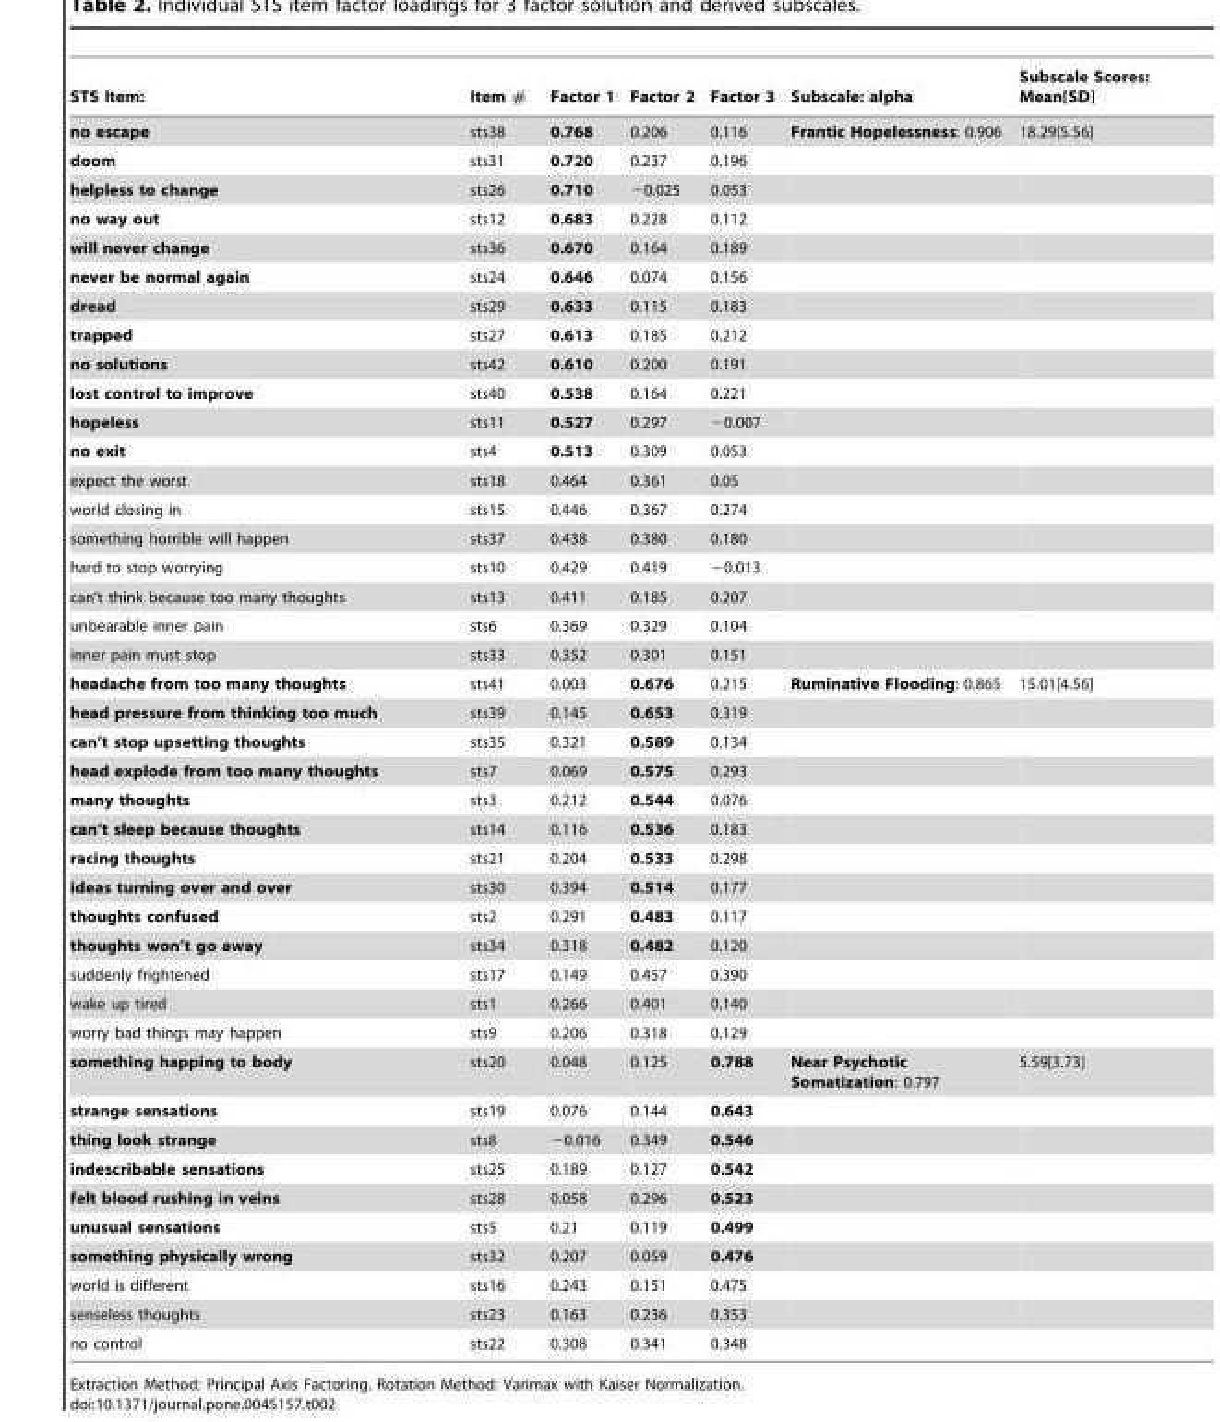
<table><thead><tr><td>STS Item:</td><td>Item #</td><td>Factor 1</td><td>Factor 2</td><td>Factor 3</td><td>Subscale: alpha</td><td>Subscale Scores: Mean[SD]</td></tr></thead><tbody><tr><td>no escape</td><td>sts38</td><td>0.768</td><td>0.206</td><td>0.116</td><td>Frantic Hopelessness: 0.906</td><td>18.29[5.56]</td></tr><tr><td>doom</td><td>sts31</td><td>0.720</td><td>0.237</td><td>0.196</td><td></td><td></td></tr><tr><td>helpless to change</td><td>sts26</td><td>0.710</td><td>−0.025</td><td>0.053</td><td></td><td></td></tr><tr><td>no way out</td><td>sts12</td><td>0.683</td><td>0.228</td><td>0.112</td><td></td><td></td></tr><tr><td>will never change</td><td>sts36</td><td>0.670</td><td>0.164</td><td>0.189</td><td></td><td></td></tr><tr><td>never be normal again</td><td>sts24</td><td>0.646</td><td>0.074</td><td>0.156</td><td></td><td></td></tr><tr><td>dread</td><td>sts29</td><td>0.633</td><td>0.115</td><td>0.183</td><td></td><td></td></tr><tr><td>trapped</td><td>sts27</td><td>0.613</td><td>0.185</td><td>0.212</td><td></td><td></td></tr><tr><td>no solutions</td><td>sts42</td><td>0.610</td><td>0.200</td><td>0.191</td><td></td><td></td></tr><tr><td>lost control to improve</td><td>sts40</td><td>0.538</td><td>0.164</td><td>0.221</td><td></td><td></td></tr><tr><td>hopeless</td><td>sts11</td><td>0.527</td><td>0.297</td><td>−0.007</td><td></td><td></td></tr><tr><td>no exit</td><td>sts4</td><td>0.513</td><td>0.309</td><td>0.053</td><td></td><td></td></tr><tr><td>expect the worst</td><td>sts18</td><td>0.464</td><td>0.361</td><td>0.05</td><td></td><td></td></tr><tr><td>world closing in</td><td>sts15</td><td>0.446</td><td>0.367</td><td>0.274</td><td></td><td></td></tr><tr><td>something horrible will happen</td><td>sts37</td><td>0.438</td><td>0.380</td><td>0.180</td><td></td><td></td></tr><tr><td>hard to stop worrying</td><td>sts10</td><td>0.429</td><td>0.419</td><td>−0.013</td><td></td><td></td></tr><tr><td>can’t think because too many thoughts</td><td>sts13</td><td>0.411</td><td>0.185</td><td>0.207</td><td></td><td></td></tr><tr><td>unbearable inner pain</td><td>sts6</td><td>0.369</td><td>0.329</td><td>0.104</td><td></td><td></td></tr><tr><td>inner pain must stop</td><td>sts33</td><td>0.352</td><td>0.301</td><td>0.151</td><td></td><td></td></tr><tr><td>headache from too many thoughts</td><td>sts41</td><td>0.003</td><td>0.676</td><td>0.215</td><td>Ruminative Flooding: 0.865</td><td>15.01[4.56]</td></tr><tr><td>head pressure from thinking too much</td><td>sts39</td><td>0.145</td><td>0.653</td><td>0.319</td><td></td><td></td></tr><tr><td>can’t stop upsetting thoughts</td><td>sts35</td><td>0.321</td><td>0.589</td><td>0.134</td><td></td><td></td></tr><tr><td>head explode from too many thoughts</td><td>sts7</td><td>0.069</td><td>0.575</td><td>0.293</td><td></td><td></td></tr><tr><td>many thoughts</td><td>sts3</td><td>0.212</td><td>0.544</td><td>0.076</td><td></td><td></td></tr><tr><td>can’t sleep because thoughts</td><td>sts14</td><td>0.116</td><td>0.536</td><td>0.183</td><td></td><td></td></tr><tr><td>racing thoughts</td><td>sts21</td><td>0.204</td><td>0.533</td><td>0.298</td><td></td><td></td></tr><tr><td>ideas turning over and over</td><td>sts30</td><td>0.394</td><td>0.514</td><td>0.177</td><td></td><td></td></tr><tr><td>thoughts confused</td><td>sts2</td><td>0.291</td><td>0.483</td><td>0.117</td><td></td><td></td></tr><tr><td>thoughts won’t go away</td><td>sts34</td><td>0.318</td><td>0.482</td><td>0.120</td><td></td><td></td></tr><tr><td>suddenly frightened</td><td>sts17</td><td>0.149</td><td>0.457</td><td>0.390</td><td></td><td></td></tr><tr><td>wake up tired</td><td>sts1</td><td>0.266</td><td>0.401</td><td>0.140</td><td></td><td></td></tr><tr><td>worry bad things may happen</td><td>sts9</td><td>0.206</td><td>0.318</td><td>0.129</td><td></td><td></td></tr><tr><td>something happing to body</td><td>sts20</td><td>0.048</td><td>0.125</td><td>0.788</td><td>Near Psychotic Somatization: 0.797</td><td>5.59[3.73]</td></tr><tr><td>strange sensations</td><td>sts19</td><td>0.076</td><td>0.144</td><td>0.643</td><td></td><td></td></tr><tr><td>thing look strange</td><td>sts8</td><td>−0.016</td><td>0.349</td><td>0.546</td><td></td><td></td></tr><tr><td>indescribable sensations</td><td>sts25</td><td>0.189</td><td>0.127</td><td>0.542</td><td></td><td></td></tr><tr><td>felt blood rushing in veins</td><td>sts28</td><td>0.058</td><td>0.296</td><td>0.523</td><td></td><td></td></tr><tr><td>unusual sensations</td><td>sts5</td><td>0.21</td><td>0.119</td><td>0.499</td><td></td><td></td></tr><tr><td>something physically wrong</td><td>sts32</td><td>0.207</td><td>0.059</td><td>0.476</td><td></td><td></td></tr><tr><td>world is different</td><td>sts16</td><td>0.243</td><td>0.151</td><td>0.475</td><td></td><td></td></tr><tr><td>senseless thoughts</td><td>sts23</td><td>0.163</td><td>0.236</td><td>0.353</td><td></td><td></td></tr><tr><td>no control</td><td>sts22</td><td>0.308</td><td>0.341</td><td>0.348</td><td></td><td></td></tr></tbody></table>